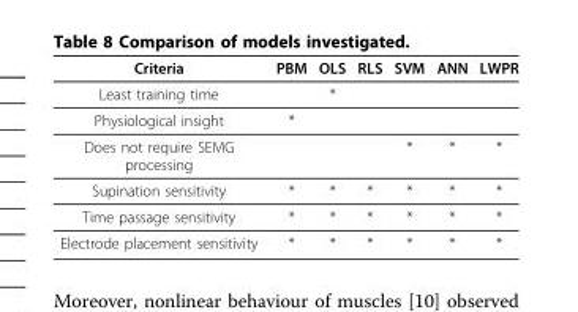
<table><thead><tr><td>Criteria</td><td>PBM</td><td>OLS</td><td>RLS</td><td>SVM</td><td>ANN</td><td>LWPR</td></tr></thead><tbody><tr><td>Least training time</td><td></td><td>*</td><td></td><td></td><td></td><td></td></tr><tr><td>Physiological insight</td><td>*</td><td></td><td></td><td></td><td></td><td></td></tr><tr><td>Does not require SEMG processing</td><td></td><td></td><td></td><td>*</td><td>*</td><td>*</td></tr><tr><td>Supination sensitivity</td><td>*</td><td>*</td><td>*</td><td>*</td><td>*</td><td>*</td></tr><tr><td>Time passage sensitivity</td><td>*</td><td>*</td><td>*</td><td>*</td><td>*</td><td>*</td></tr><tr><td>Electrode placement sensitivity</td><td>*</td><td>*</td><td>*</td><td>*</td><td>*</td><td>*</td></tr></tbody></table>